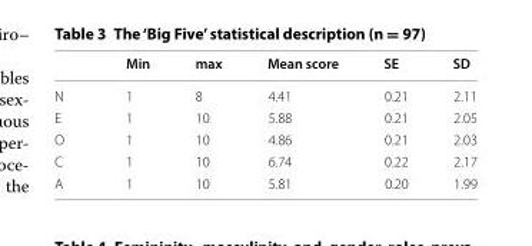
<table><thead><tr><td></td><td>Min</td><td>max</td><td>Mean score</td><td>SE</td><td>SD</td></tr></thead><tbody><tr><td>N</td><td>1</td><td>8</td><td>4.41</td><td>0.21</td><td>2.11</td></tr><tr><td>E</td><td>1</td><td>10</td><td>5.88</td><td>0.21</td><td>2.05</td></tr><tr><td>O</td><td>1</td><td>10</td><td>4.86</td><td>0.21</td><td>2.03</td></tr><tr><td>C</td><td>1</td><td>10</td><td>6.74</td><td>0.22</td><td>2.17</td></tr><tr><td>A</td><td>1</td><td>10</td><td>5.81</td><td>0.20</td><td>1.99</td></tr></tbody></table>